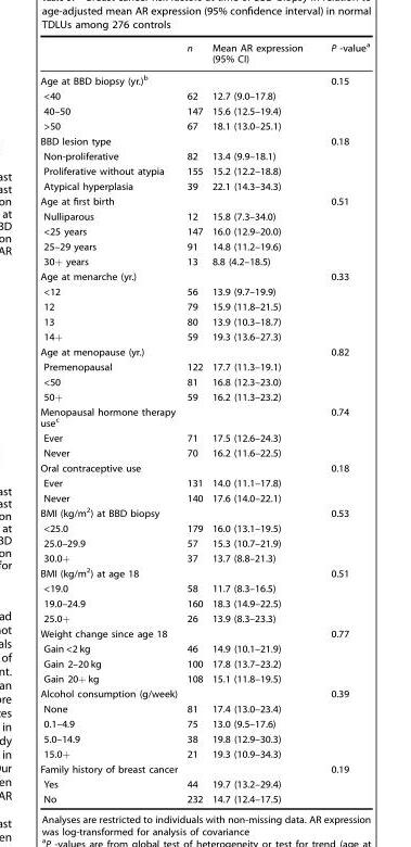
<table><thead><tr><td></td><td>n</td><td>Mean AR expression (95% CI)</td><td>P -value<sup>a</sup></td></tr></thead><tbody><tr><td>Age at BBD biopsy (yr.)<sup>b</sup></td><td></td><td></td><td>0.15</td></tr><tr><td>&lt;40</td><td>62</td><td>12.7 (9.0–17.8)</td><td></td></tr><tr><td>40–50</td><td>147</td><td>15.6 (12.5–19.4)</td><td></td></tr><tr><td>&gt;50</td><td>67</td><td>18.1 (13.0–25.1)</td><td></td></tr><tr><td>BBD lesion type</td><td></td><td></td><td>0.18</td></tr><tr><td>Non-proliferative</td><td>82</td><td>13.4 (9.9–18.1)</td><td></td></tr><tr><td>Proliferative without atypia</td><td>155</td><td>15.2 (12.2–18.8)</td><td></td></tr><tr><td>Atypical hyperplasia</td><td>39</td><td>22.1 (14.3–34.3)</td><td></td></tr><tr><td>Age at first birth</td><td></td><td></td><td>0.51</td></tr><tr><td>Nulliparous</td><td>12</td><td>15.8 (7.3–34.0)</td><td></td></tr><tr><td>&lt;25 years</td><td>147</td><td>16.0 (12.9–20.0)</td><td></td></tr><tr><td>25–29 years</td><td>91</td><td>14.8 (11.2–19.6)</td><td></td></tr><tr><td>30+ years</td><td>13</td><td>8.8 (4.2–18.5)</td><td></td></tr><tr><td>Age at menarche (yr.)</td><td></td><td></td><td>0.33</td></tr><tr><td>&lt;12</td><td>56</td><td>13.9 (9.7–19.9)</td><td></td></tr><tr><td>12</td><td>79</td><td>15.9 (11.8–21.5)</td><td></td></tr><tr><td>13</td><td>80</td><td>13.9 (10.3–18.7)</td><td></td></tr><tr><td>14+</td><td>59</td><td>19.3 (13.6–27.3)</td><td></td></tr><tr><td>Age at menopause (yr.)</td><td></td><td></td><td>0.82</td></tr><tr><td>Premenopausal</td><td>122</td><td>17.7 (11.3–19.1)</td><td></td></tr><tr><td>&lt;50</td><td>81</td><td>16.8 (12.3–23.0)</td><td></td></tr><tr><td>50+</td><td>59</td><td>16.2 (11.3–23.2)</td><td></td></tr><tr><td>Menopausal hormone therapy use<sup>c</sup></td><td></td><td></td><td>0.74</td></tr><tr><td>Ever</td><td>71</td><td>17.5 (12.6–24.3)</td><td></td></tr><tr><td>Never</td><td>70</td><td>16.2 (11.6–22.5)</td><td></td></tr><tr><td>Oral contraceptive use</td><td></td><td></td><td>0.18</td></tr><tr><td>Ever</td><td>131</td><td>14.0 (11.1–17.8)</td><td></td></tr><tr><td>Never</td><td>140</td><td>17.6 (14.0–22.1)</td><td></td></tr><tr><td>BMI (kg/m<sup>2</sup>) at BBD biopsy</td><td></td><td></td><td>0.53</td></tr><tr><td>&lt;25.0</td><td>179</td><td>16.0 (13.1–19.5)</td><td></td></tr><tr><td>25.0–29.9</td><td>57</td><td>15.3 (10.7–21.9)</td><td></td></tr><tr><td>30.0+</td><td>37</td><td>13.7 (8.8–21.3)</td><td></td></tr><tr><td>BMI (kg/m<sup>2</sup>) at age 18</td><td></td><td></td><td>0.51</td></tr><tr><td>&lt;19.0</td><td>58</td><td>11.7 (8.3–16.5)</td><td></td></tr><tr><td>19.0–24.9</td><td>160</td><td>18.3 (14.9–22.5)</td><td></td></tr><tr><td>25.0+</td><td>26</td><td>13.9 (8.3–23.3)</td><td></td></tr><tr><td>Weight change since age 18</td><td></td><td></td><td>0.77</td></tr><tr><td>Gain &lt;2 kg</td><td>46</td><td>14.9 (10.1–21.9)</td><td></td></tr><tr><td>Gain 2–20 kg</td><td>100</td><td>17.8 (13.7–23.2)</td><td></td></tr><tr><td>Gain 20+ kg</td><td>108</td><td>15.1 (11.8–19.5)</td><td></td></tr><tr><td>Alcohol consumption (g/week)</td><td></td><td></td><td>0.39</td></tr><tr><td>None</td><td>81</td><td>17.4 (13.0–23.4)</td><td></td></tr><tr><td>0.1–4.9</td><td>75</td><td>13.0 (9.5–17.6)</td><td></td></tr><tr><td>5.0–14.9</td><td>38</td><td>19.8 (12.9–30.3)</td><td></td></tr><tr><td>15.0+</td><td>21</td><td>19.3 (10.9–34.3)</td><td></td></tr><tr><td>Family history of breast cancer</td><td></td><td></td><td>0.19</td></tr><tr><td>Yes</td><td>44</td><td>19.7 (13.2–29.4)</td><td></td></tr><tr><td>No</td><td>232</td><td>14.7 (12.4–17.5)</td><td></td></tr></tbody></table>